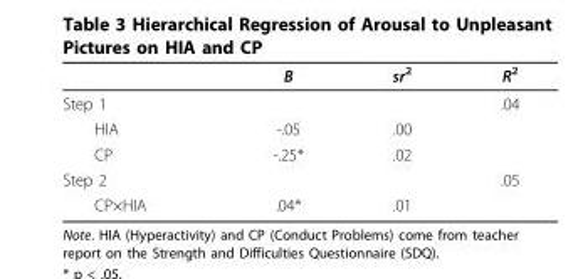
<table><thead><tr><td></td><td>B</td><td>sr<sup>2</sup></td><td>R<sup>2</sup></td></tr></thead><tbody><tr><td>Step 1</td><td></td><td></td><td>.04</td></tr><tr><td>HIA</td><td>-.05</td><td>.00</td><td></td></tr><tr><td>CP</td><td>-.25*</td><td>.02</td><td></td></tr><tr><td>Step 2</td><td></td><td></td><td>.05</td></tr><tr><td>CP×HIA</td><td>.04*</td><td>.01</td><td></td></tr></tbody></table>